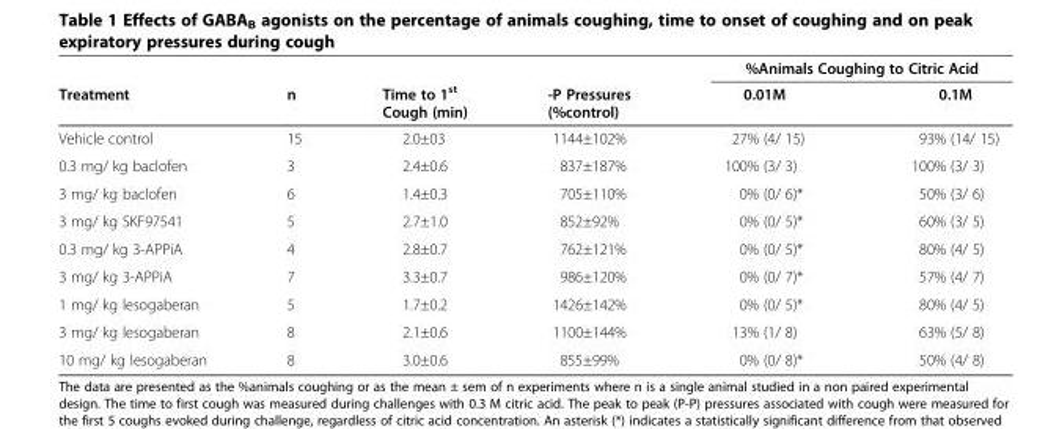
<table><thead><tr><td rowspan="2">Treatment</td><td rowspan="2">n</td><td rowspan="2">Time to 1<sup>st</sup> Cough (min)</td><td rowspan="2">-P Pressures (%control)</td><td colspan="2">%Animals Coughing to Citric Acid</td></tr><tr><td>0.01M</td><td>0.1M</td></tr></thead><tbody><tr><td>Vehicle control</td><td>15</td><td>2.0±03</td><td>1144±102%</td><td>27% (4/ 15)</td><td>93% (14/ 15)</td></tr><tr><td>0.3 mg/ kg baclofen</td><td>3</td><td>2.4±0.6</td><td>837±187%</td><td>100% (3/ 3)</td><td>100% (3/ 3)</td></tr><tr><td>3 mg/ kg baclofen</td><td>6</td><td>1.4±0.3</td><td>705±110%</td><td>0% (0/ 6)*</td><td>50% (3/ 6)</td></tr><tr><td>3 mg/ kg SKF97541</td><td>5</td><td>2.7±1.0</td><td>852±92%</td><td>0% (0/ 5)*</td><td>60% (3/ 5)</td></tr><tr><td>0.3 mg/ kg 3-APPiA</td><td>4</td><td>2.8±0.7</td><td>762±121%</td><td>0% (0/ 5)*</td><td>80% (4/ 5)</td></tr><tr><td>3 mg/ kg 3-APPiA</td><td>7</td><td>3.3±0.7</td><td>986±120%</td><td>0% (0/ 7)*</td><td>57% (4/ 7)</td></tr><tr><td>1 mg/ kg lesogaberan</td><td>5</td><td>1.7±0.2</td><td>1426±142%</td><td>0% (0/ 5)*</td><td>80% (4/ 5)</td></tr><tr><td>3 mg/ kg lesogaberan</td><td>8</td><td>2.1±0.6</td><td>1100±144%</td><td>13% (1/ 8)</td><td>63% (5/ 8)</td></tr><tr><td>10 mg/ kg lesogaberan</td><td>8</td><td>3.0±0.6</td><td>855±99%</td><td>0% (0/ 8)*</td><td>50% (4/ 8)</td></tr></tbody></table>